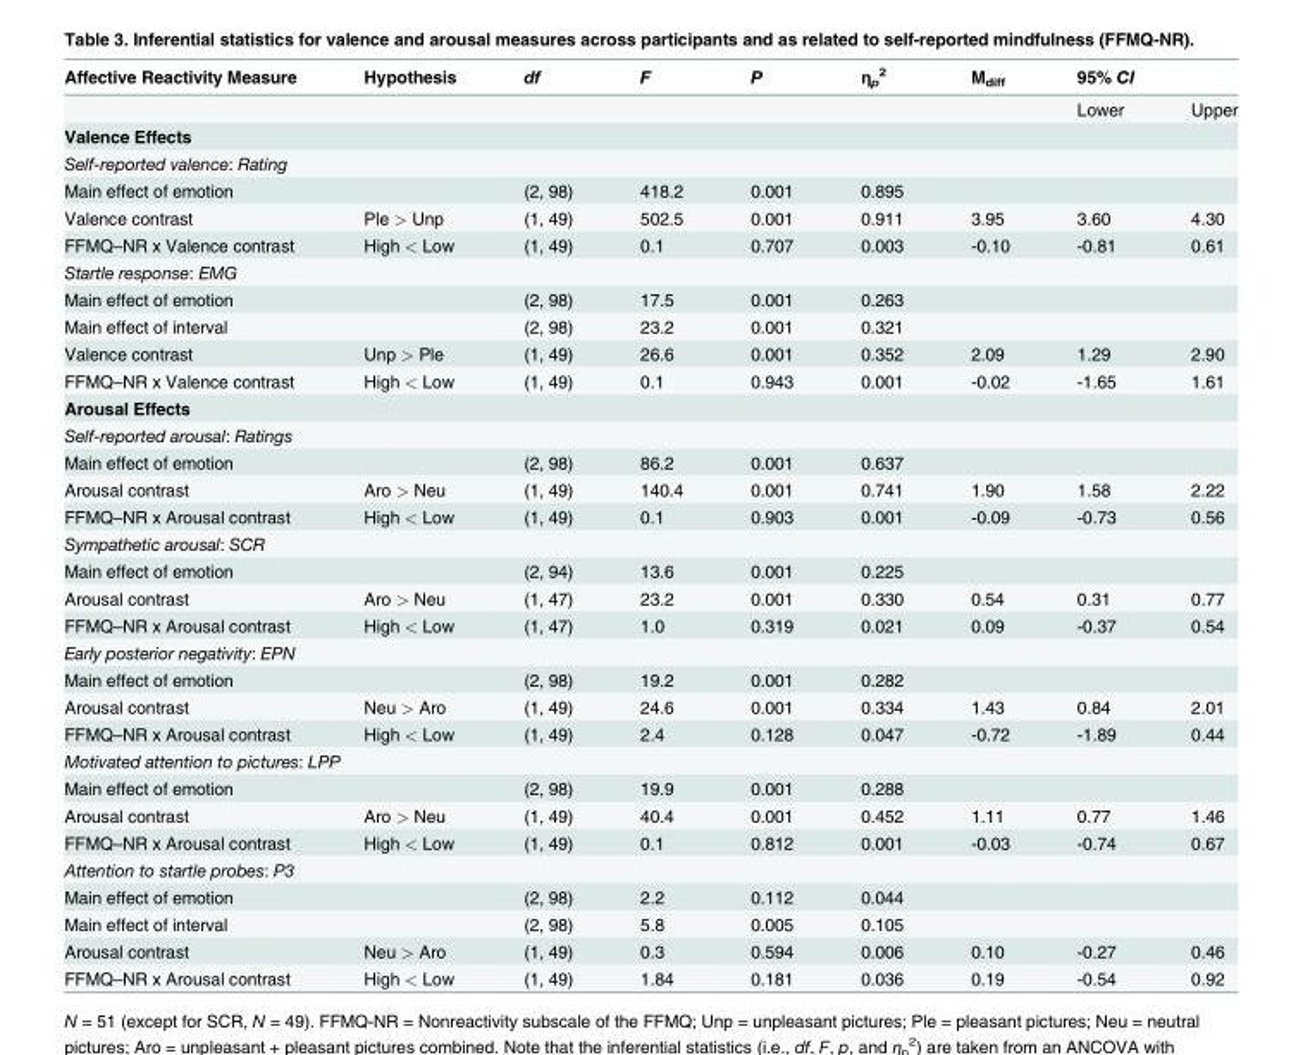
<table><thead><tr><td rowspan="2">Affective Reactivity Measure</td><td rowspan="2">Hypothesis</td><td rowspan="2">df</td><td rowspan="2">F</td><td rowspan="2">P</td><td rowspan="2">η<sub>p</sub> <sup>2</sup></td><td rowspan="2">M<sub>diff</sub></td><td colspan="2">95% CI</td></tr><tr><td>Lower</td><td>Upper</td></tr></thead><tbody><tr><td colspan="9">Valence Effects</td></tr><tr><td colspan="9">Self-reported valence: Rating</td></tr><tr><td>Main effect of emotion</td><td></td><td>(2, 98)</td><td>418.2</td><td>0.001</td><td>0.895</td><td></td><td></td><td></td></tr><tr><td>Valence contrast</td><td>Ple &gt; Unp</td><td>(1, 49)</td><td>502.5</td><td>0.001</td><td>0.911</td><td>3.95</td><td>3.60</td><td>4.30</td></tr><tr><td>FFMQ–NR x Valence contrast</td><td>High &lt; Low</td><td>(1, 49)</td><td>0.1</td><td>0.707</td><td>0.003</td><td>-0.10</td><td>-0.81</td><td>0.61</td></tr><tr><td colspan="9">Startle response: EMG</td></tr><tr><td>Main effect of emotion</td><td></td><td>(2, 98)</td><td>17.5</td><td>0.001</td><td>0.263</td><td></td><td></td><td></td></tr><tr><td>Main effect of interval</td><td></td><td>(2, 98)</td><td>23.2</td><td>0.001</td><td>0.321</td><td></td><td></td><td></td></tr><tr><td>Valence contrast</td><td>Unp &gt; Ple</td><td>(1, 49)</td><td>26.6</td><td>0.001</td><td>0.352</td><td>2.09</td><td>1.29</td><td>2.90</td></tr><tr><td>FFMQ–NR x Valence contrast</td><td>High &lt; Low</td><td>(1, 49)</td><td>0.1</td><td>0.943</td><td>0.001</td><td>-0.02</td><td>-1.65</td><td>1.61</td></tr><tr><td colspan="9">Arousal Effects</td></tr><tr><td colspan="9">Self-reported arousal: Ratings</td></tr><tr><td>Main effect of emotion</td><td></td><td>(2, 98)</td><td>86.2</td><td>0.001</td><td>0.637</td><td></td><td></td><td></td></tr><tr><td>Arousal contrast</td><td>Aro &gt; Neu</td><td>(1, 49)</td><td>140.4</td><td>0.001</td><td>0.741</td><td>1.90</td><td>1.58</td><td>2.22</td></tr><tr><td>FFMQ–NR x Arousal contrast</td><td>High &lt; Low</td><td>(1, 49)</td><td>0.1</td><td>0.903</td><td>0.001</td><td>-0.09</td><td>-0.73</td><td>0.56</td></tr><tr><td colspan="9">Sympathetic arousal: SCR</td></tr><tr><td>Main effect of emotion</td><td></td><td>(2, 94)</td><td>13.6</td><td>0.001</td><td>0.225</td><td></td><td></td><td></td></tr><tr><td>Arousal contrast</td><td>Aro &gt; Neu</td><td>(1, 47)</td><td>23.2</td><td>0.001</td><td>0.330</td><td>0.54</td><td>0.31</td><td>0.77</td></tr><tr><td>FFMQ–NR x Arousal contrast</td><td>High &lt; Low</td><td>(1, 47)</td><td>1.0</td><td>0.319</td><td>0.021</td><td>0.09</td><td>-0.37</td><td>0.54</td></tr><tr><td colspan="9">Early posterior negativity: EPN</td></tr><tr><td>Main effect of emotion</td><td></td><td>(2, 98)</td><td>19.2</td><td>0.001</td><td>0.282</td><td></td><td></td><td></td></tr><tr><td>Arousal contrast</td><td>Neu &gt; Aro</td><td>(1, 49)</td><td>24.6</td><td>0.001</td><td>0.334</td><td>1.43</td><td>0.84</td><td>2.01</td></tr><tr><td>FFMQ–NR x Arousal contrast</td><td>High &lt; Low</td><td>(1, 49)</td><td>2.4</td><td>0.128</td><td>0.047</td><td>-0.72</td><td>-1.89</td><td>0.44</td></tr><tr><td colspan="9">Motivated attention to pictures: LPP</td></tr><tr><td>Main effect of emotion</td><td></td><td>(2, 98)</td><td>19.9</td><td>0.001</td><td>0.288</td><td></td><td></td><td></td></tr><tr><td>Arousal contrast</td><td>Aro &gt; Neu</td><td>(1, 49)</td><td>40.4</td><td>0.001</td><td>0.452</td><td>1.11</td><td>0.77</td><td>1.46</td></tr><tr><td>FFMQ–NR x Arousal contrast</td><td>High &lt; Low</td><td>(1, 49)</td><td>0.1</td><td>0.812</td><td>0.001</td><td>-0.03</td><td>-0.74</td><td>0.67</td></tr><tr><td colspan="9">Attention to startle probes: P3</td></tr><tr><td>Main effect of emotion</td><td></td><td>(2, 98)</td><td>2.2</td><td>0.112</td><td>0.044</td><td></td><td></td><td></td></tr><tr><td>Main effect of interval</td><td></td><td>(2, 98)</td><td>5.8</td><td>0.005</td><td>0.105</td><td></td><td></td><td></td></tr><tr><td>Arousal contrast</td><td>Neu &gt; Aro</td><td>(1, 49)</td><td>0.3</td><td>0.594</td><td>0.006</td><td>0.10</td><td>-0.27</td><td>0.46</td></tr><tr><td>FFMQ–NR x Arousal contrast</td><td>High &lt; Low</td><td>(1, 49)</td><td>1.84</td><td>0.181</td><td>0.036</td><td>0.19</td><td>-0.54</td><td>0.92</td></tr></tbody></table>